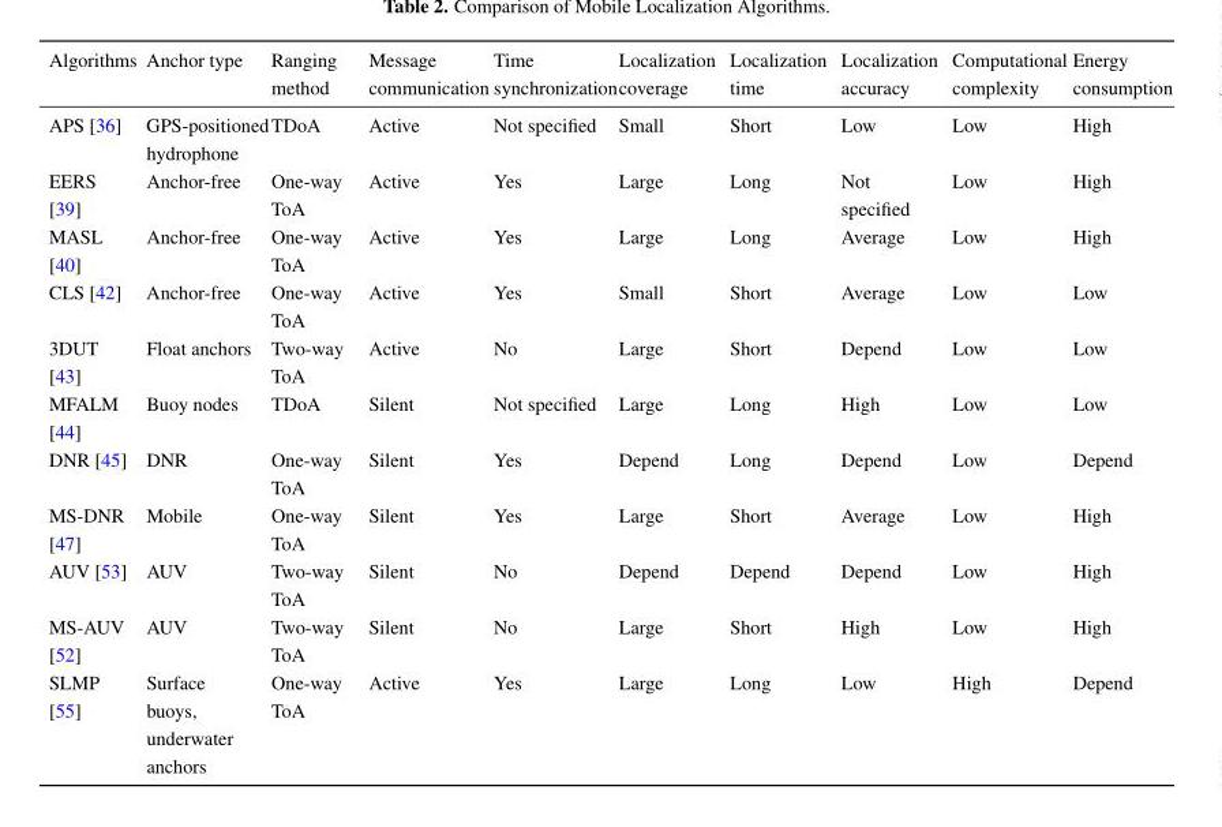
<table><thead><tr><td>Algorithms</td><td>Anchor type</td><td>Ranging method</td><td>Message communication</td><td>Time synchronization</td><td>Localization coverage</td><td>Localization time</td><td>Localization accuracy</td><td>Computational complexity</td><td>Energy consumption</td></tr></thead><tbody><tr><td>APS [36]</td><td>GPS-positioned hydrophone</td><td>TDoA</td><td>Active</td><td>Not specified</td><td>Small</td><td>Short</td><td>Low</td><td>Low</td><td>High</td></tr><tr><td>EERS [39]</td><td>Anchor-free</td><td>One-way ToA</td><td>Active</td><td>Yes</td><td>Large</td><td>Long</td><td>Not specified</td><td>Low</td><td>High</td></tr><tr><td>MASL [40]</td><td>Anchor-free</td><td>One-way ToA</td><td>Active</td><td>Yes</td><td>Large</td><td>Long</td><td>Average</td><td>Low</td><td>High</td></tr><tr><td>CLS [42]</td><td>Anchor-free</td><td>One-way ToA</td><td>Active</td><td>Yes</td><td>Small</td><td>Short</td><td>Average</td><td>Low</td><td>Low</td></tr><tr><td>3DUT [43]</td><td>Float anchors</td><td>Two-way ToA</td><td>Active</td><td>No</td><td>Large</td><td>Short</td><td>Depend</td><td>Low</td><td>Low</td></tr><tr><td>MFALM [44]</td><td>Buoy nodes</td><td>TDoA</td><td>Silent</td><td>Not specified</td><td>Large</td><td>Long</td><td>High</td><td>Low</td><td>Low</td></tr><tr><td>DNR [45]</td><td>DNR</td><td>One-way ToA</td><td>Silent</td><td>Yes</td><td>Depend</td><td>Long</td><td>Depend</td><td>Low</td><td>Depend</td></tr><tr><td>MS-DNR [47]</td><td>Mobile</td><td>One-way ToA</td><td>Silent</td><td>Yes</td><td>Large</td><td>Short</td><td>Average</td><td>Low</td><td>High</td></tr><tr><td>AUV [53]</td><td>AUV</td><td>Two-way ToA</td><td>Silent</td><td>No</td><td>Depend</td><td>Depend</td><td>Depend</td><td>Low</td><td>High</td></tr><tr><td>MS-AUV [52]</td><td>AUV</td><td>Two-way ToA</td><td>Silent</td><td>No</td><td>Large</td><td>Short</td><td>High</td><td>Low</td><td>High</td></tr><tr><td>SLMP [55]</td><td>Surface buoys, underwater anchors</td><td>One-way ToA</td><td>Active</td><td>Yes</td><td>Large</td><td>Long</td><td>Low</td><td>High</td><td>Depend</td></tr></tbody></table>